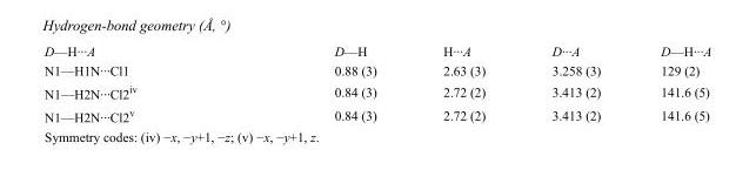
<table><tbody><tr><td>D—H···A</td><td>D—H</td><td>H···A</td><td>D···A</td><td>D—H···A</td></tr><tr><td>N1—H1N···Cl1</td><td>0.88 (3)</td><td>2.63 (3)</td><td>3.258 (3)</td><td>129 (2)</td></tr><tr><td>N1—H2N···Cl2<sup>iv</sup></td><td>0.84 (3)</td><td>2.72 (2)</td><td>3.413 (2)</td><td>141.6 (5)</td></tr><tr><td>N1—H2N···Cl2<sup>v</sup></td><td>0.84 (3)</td><td>2.72 (2)</td><td>3.413 (2)</td><td>141.6 (5)</td></tr></tbody></table>